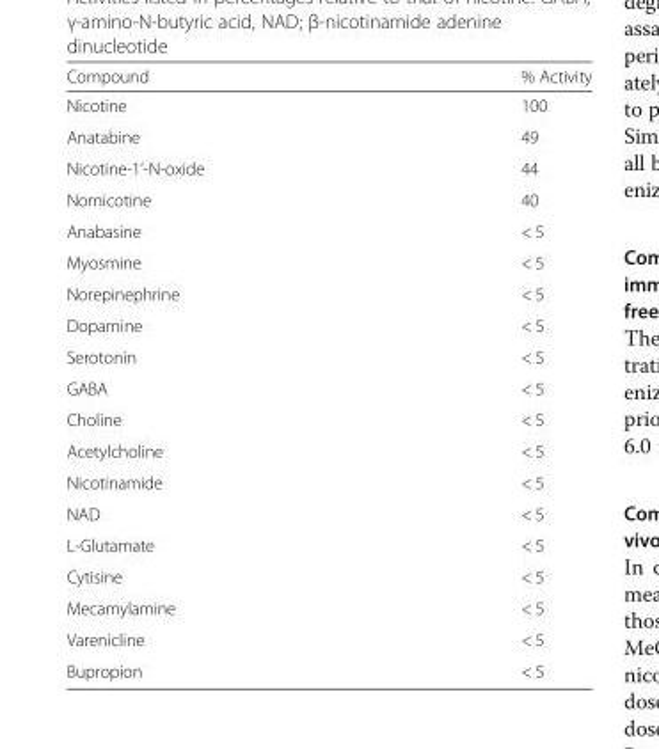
<table><thead><tr><td>Compound</td><td>% Activity</td></tr></thead><tbody><tr><td>Nicotine</td><td>100</td></tr><tr><td>Anatabine</td><td>49</td></tr><tr><td>Nicotine-1’-N-oxide</td><td>44</td></tr><tr><td>Nornicotine</td><td>40</td></tr><tr><td>Anabasine</td><td>&lt; 5</td></tr><tr><td>Myosmine</td><td>&lt; 5</td></tr><tr><td>Norepinephrine</td><td>&lt; 5</td></tr><tr><td>Dopamine</td><td>&lt; 5</td></tr><tr><td>Serotonin</td><td>&lt; 5</td></tr><tr><td>GABA</td><td>&lt; 5</td></tr><tr><td>Choline</td><td>&lt; 5</td></tr><tr><td>Acetylcholine</td><td>&lt; 5</td></tr><tr><td>Nicotinamide</td><td>&lt; 5</td></tr><tr><td>NAD</td><td>&lt; 5</td></tr><tr><td>L-Glutamate</td><td>&lt; 5</td></tr><tr><td>Cytisine</td><td>&lt; 5</td></tr><tr><td>Mecamylamine</td><td>&lt; 5</td></tr><tr><td>Varenicline</td><td>&lt; 5</td></tr><tr><td>Bupropion</td><td>&lt; 5</td></tr></tbody></table>